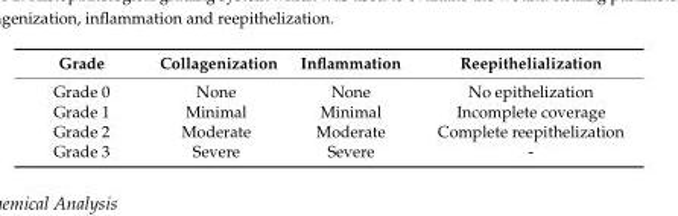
<table><thead><tr><td>Grade</td><td>Collagenization</td><td>Inflammation</td><td>Reepithelialization</td></tr></thead><tbody><tr><td>Grade 0</td><td>None</td><td>None</td><td>No epithelization</td></tr><tr><td>Grade 1</td><td>Minimal</td><td>Minimal</td><td>Incomplete coverage</td></tr><tr><td>Grade 2</td><td>Moderate</td><td>Moderate</td><td>Complete reepithelization</td></tr><tr><td>Grade 3</td><td>Severe</td><td>Severe</td><td>-</td></tr></tbody></table>